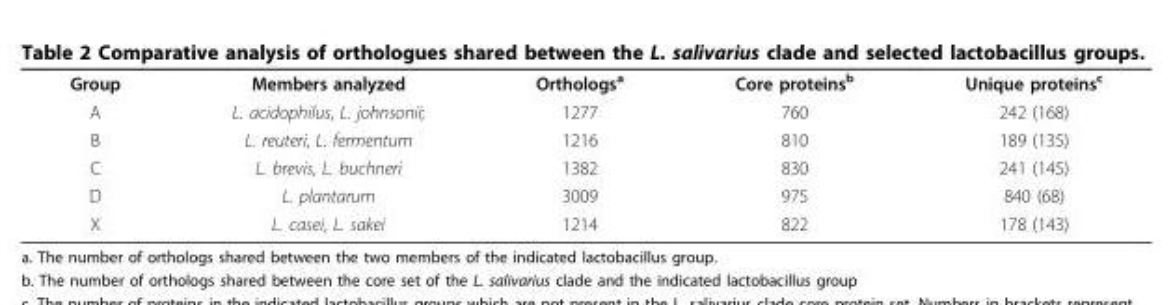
<table><tbody><tr><td>Group</td><td>Members analyzed</td><td>Orthologs<sup>a</sup></td><td>Core proteins<sup>b</sup></td><td>Unique proteins<sup>c</sup></td></tr><tr><td>A</td><td>L. acidophilus, L. johnsonii;</td><td>1277</td><td>760</td><td>242 (168)</td></tr><tr><td>B</td><td>L. reuteri, L. fermentum</td><td>1216</td><td>810</td><td>189 (135)</td></tr><tr><td>C</td><td>L. brevis, L. buchneri</td><td>1382</td><td>830</td><td>241 (145)</td></tr><tr><td>D</td><td>L. plantarum</td><td>3009</td><td>975</td><td>840 (68)</td></tr><tr><td>X</td><td>L. casei, L. sakei</td><td>1214</td><td>822</td><td>178 (143)</td></tr></tbody></table>